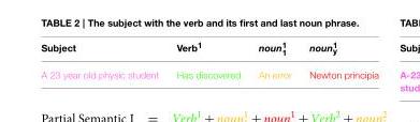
<table><thead><tr><td>Subject</td><td>Verb<sup>1</sup></td><td>noun<sup>1</sup> <sub>1</sub></td><td>noun<sup>1</sup><sub>y</sub></td></tr></thead><tbody><tr><td>A 23 year old physic student</td><td>Has discovered</td><td>An error</td><td>Newton principia</td></tr></tbody></table>